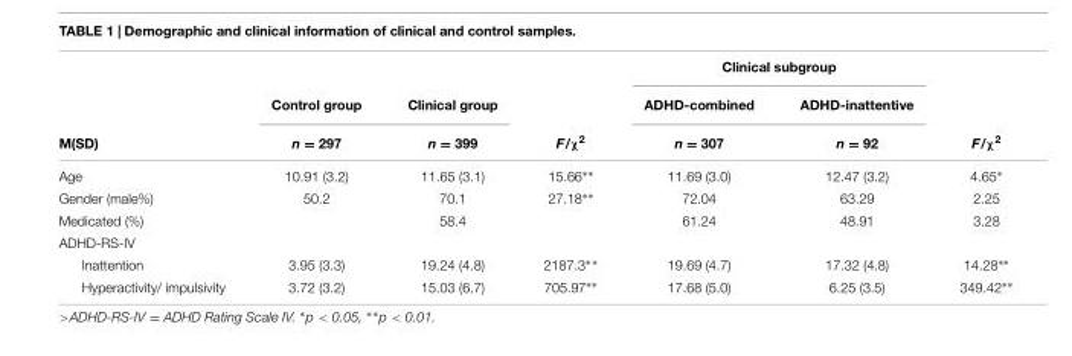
<table><thead><tr><td rowspan="3">M(SD)</td><td rowspan="3">Control group n = 297</td><td rowspan="3">Clinical group n = 399</td><td rowspan="3">F/χ<sup>2</sup></td><td colspan="2">Clinical subgroup</td><td rowspan="3">F/χ<sup>2</sup></td></tr><tr><td rowspan="2">ADHD-combined n = 307</td><td rowspan="2">ADHD-inattentive n = 92</td></tr><tr></tr></thead><tbody><tr><td>Age</td><td>10.91 (3.2)</td><td>11.65 (3.1)</td><td>15.66∗∗</td><td>11.69 (3.0)</td><td>12.47 (3.2)</td><td>4.65∗</td></tr><tr><td>Gender (male%)</td><td>50.2</td><td>70.1</td><td>27.18∗∗</td><td>72.04</td><td>63.29</td><td>2.25</td></tr><tr><td>Medicated (%)</td><td></td><td>58.4</td><td></td><td>61.24</td><td>48.91</td><td>3.28</td></tr><tr><td colspan="7">ADHD-RS-IV</td></tr><tr><td>Inattention</td><td>3.95 (3.3)</td><td>19.24 (4.8)</td><td>2187.3∗∗</td><td>19.69 (4.7)</td><td>17.32 (4.8)</td><td>14.28∗∗</td></tr><tr><td>Hyperactivity/ impulsivity</td><td>3.72 (3.2)</td><td>15.03 (6.7)</td><td>705.97∗∗</td><td>17.68 (5.0)</td><td>6.25 (3.5)</td><td>349.42∗∗</td></tr></tbody></table>